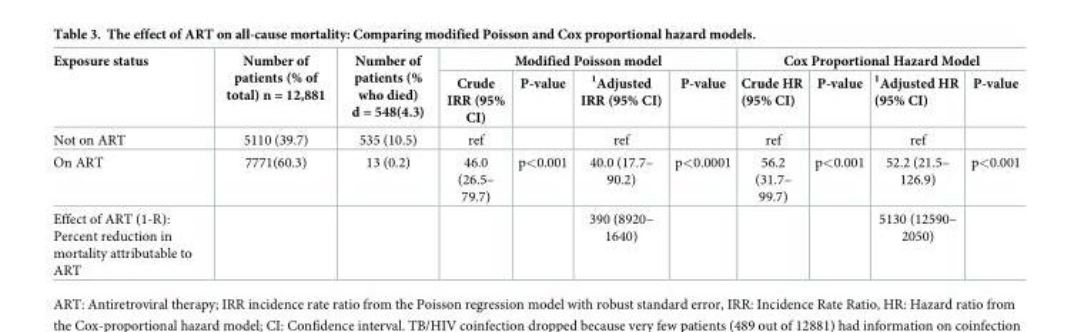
<table><thead><tr><td rowspan="2">Exposure status</td><td rowspan="2">Number of patients (% of total) n = 12,881</td><td rowspan="2">Number of patients (% who died) d = 548(4.3)</td><td colspan="4">Modified Poisson model</td><td colspan="4">Cox Proportional Hazard Model</td></tr><tr><td>Crude IRR (95% CI)</td><td>P-value</td><td><sup>1</sup>Adjusted IRR (95% CI)</td><td>P-value</td><td>Crude HR (95% CI)</td><td>P-value</td><td><sup>1</sup>Adjusted HR (95% CI)</td><td>P-value</td></tr></thead><tbody><tr><td>Not on ART</td><td>5110 (39.7)</td><td>535 (10.5)</td><td>ref</td><td></td><td>ref</td><td></td><td>ref</td><td></td><td>ref</td><td></td></tr><tr><td>On ART</td><td>7771(60.3)</td><td>13 (0.2)</td><td>46.0 (26.5– 79.7)</td><td>p&lt;0.001</td><td>40.0 (17.7– 90.2)</td><td>p&lt;0.0001</td><td>56.2 (31.7– 99.7)</td><td>p&lt;0.001</td><td>52.2 (21.5– 126.9)</td><td>p&lt;0.001</td></tr><tr><td>Effect of ART (1-R): Percent reduction in mortality attributable to ART</td><td></td><td></td><td></td><td></td><td>390 (8920– 1640)</td><td></td><td></td><td></td><td>5130 (12590– 2050)</td><td></td></tr></tbody></table>